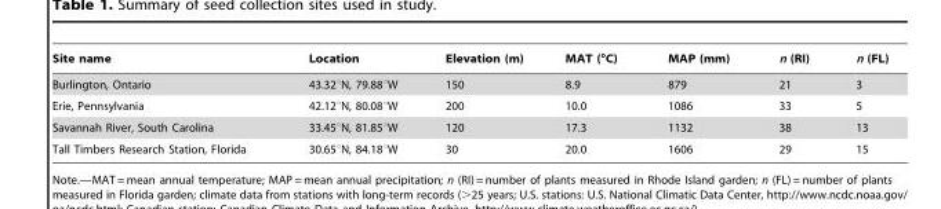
<table><thead><tr><td>Site name</td><td>Location</td><td>Elevation (m)</td><td>MAT (°C)</td><td>MAP (mm)</td><td>n (RI)</td><td>n (FL)</td></tr></thead><tbody><tr><td>Burlington, Ontario</td><td>43.32°N, 79.88°W</td><td>150</td><td>8.9</td><td>879</td><td>21</td><td>3</td></tr><tr><td>Erie, Pennsylvania</td><td>42.12°N, 80.08°W</td><td>200</td><td>10.0</td><td>1086</td><td>33</td><td>5</td></tr><tr><td>Savannah River, South Carolina</td><td>33.45°N, 81.85°W</td><td>120</td><td>17.3</td><td>1132</td><td>38</td><td>13</td></tr><tr><td>Tall Timbers Research Station, Florida</td><td>30.65°N, 84.18°W</td><td>30</td><td>20.0</td><td>1606</td><td>29</td><td>15</td></tr></tbody></table>